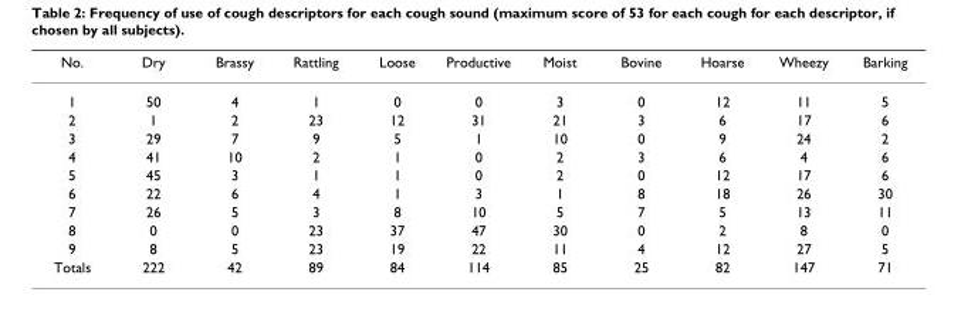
<table><thead><tr><td>No.</td><td>Dry</td><td>Brassy</td><td>Rattling</td><td>Loose</td><td>Productive</td><td>Moist</td><td>Bovine</td><td>Hoarse</td><td>Wheezy</td><td>Barking</td></tr></thead><tbody><tr><td>1</td><td>50</td><td>4</td><td>1</td><td>0</td><td>0</td><td>3</td><td>0</td><td>12</td><td>11</td><td>5</td></tr><tr><td>2</td><td>1</td><td>2</td><td>23</td><td>12</td><td>31</td><td>21</td><td>3</td><td>6</td><td>17</td><td>6</td></tr><tr><td>3</td><td>29</td><td>7</td><td>9</td><td>5</td><td>1</td><td>10</td><td>0</td><td>9</td><td>24</td><td>2</td></tr><tr><td>4</td><td>41</td><td>10</td><td>2</td><td>1</td><td>0</td><td>2</td><td>3</td><td>6</td><td>4</td><td>6</td></tr><tr><td>5</td><td>45</td><td>3</td><td>1</td><td>1</td><td>0</td><td>2</td><td>0</td><td>12</td><td>17</td><td>6</td></tr><tr><td>6</td><td>22</td><td>6</td><td>4</td><td>1</td><td>3</td><td>1</td><td>8</td><td>18</td><td>26</td><td>30</td></tr><tr><td>7</td><td>26</td><td>5</td><td>3</td><td>8</td><td>10</td><td>5</td><td>7</td><td>5</td><td>13</td><td>11</td></tr><tr><td>8</td><td>0</td><td>0</td><td>23</td><td>37</td><td>47</td><td>30</td><td>0</td><td>2</td><td>8</td><td>0</td></tr><tr><td>9</td><td>8</td><td>5</td><td>23</td><td>19</td><td>22</td><td>11</td><td>4</td><td>12</td><td>27</td><td>5</td></tr><tr><td>Totals</td><td>222</td><td>42</td><td>89</td><td>84</td><td>114</td><td>85</td><td>25</td><td>82</td><td>147</td><td>71</td></tr></tbody></table>